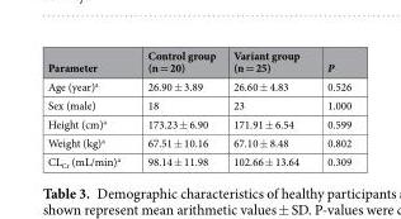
<table><thead><tr><td>Parameter</td><td>Control group (n = 20)</td><td>Variant group (n = 25)</td><td>P</td></tr></thead><tbody><tr><td>Age (year)<sup>a</sup></td><td>26.90 ± 3.89</td><td>26.60 ± 4.83</td><td>0.526</td></tr><tr><td>Sex (male)</td><td>18</td><td>23</td><td>1.000</td></tr><tr><td>Height (cm)<sup>a</sup></td><td>173.23 ± 6.90</td><td>171.91 ± 6.54</td><td>0.599</td></tr><tr><td>Weight (kg)<sup>a</sup></td><td>67.51 ± 10.16</td><td>67.10 ± 8.48</td><td>0.802</td></tr><tr><td>CL<sub>Cr</sub> (mL/min)<sup>a</sup></td><td>98.14 ± 11.98</td><td>102.66 ± 13.64</td><td>0.309</td></tr></tbody></table>